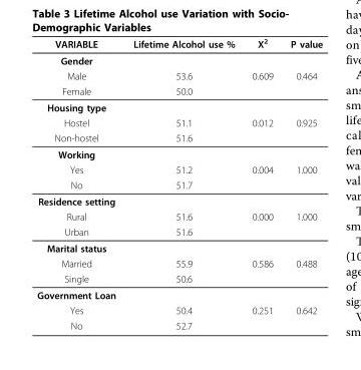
<table><thead><tr><td>VARIABLE</td><td>Lifetime Alcohol use %</td><td>X<sup>2</sup></td><td>P value</td></tr></thead><tbody><tr><td colspan="4">Gender</td></tr><tr><td>Male</td><td>53.6</td><td>0.609</td><td>0.464</td></tr><tr><td>Female</td><td>50.0</td><td></td><td></td></tr><tr><td colspan="4">Housing type</td></tr><tr><td>Hostel</td><td>51.1</td><td>0.012</td><td>0.925</td></tr><tr><td>Non-hostel</td><td>51.6</td><td></td><td></td></tr><tr><td colspan="4">Working</td></tr><tr><td>Yes</td><td>51.2</td><td>0.004</td><td>1.000</td></tr><tr><td>No</td><td>51.7</td><td></td><td></td></tr><tr><td colspan="4">Residence setting</td></tr><tr><td>Rural</td><td>51.6</td><td>0.000</td><td>1.000</td></tr><tr><td>Urban</td><td>51.6</td><td></td><td></td></tr><tr><td colspan="4">Marital status</td></tr><tr><td>Married</td><td>55.9</td><td>0.586</td><td>0.488</td></tr><tr><td>Single</td><td>50.6</td><td></td><td></td></tr><tr><td colspan="4">Government Loan</td></tr><tr><td>Yes</td><td>50.4</td><td>0.251</td><td>0.642</td></tr><tr><td>No</td><td>52.7</td><td></td><td></td></tr></tbody></table>